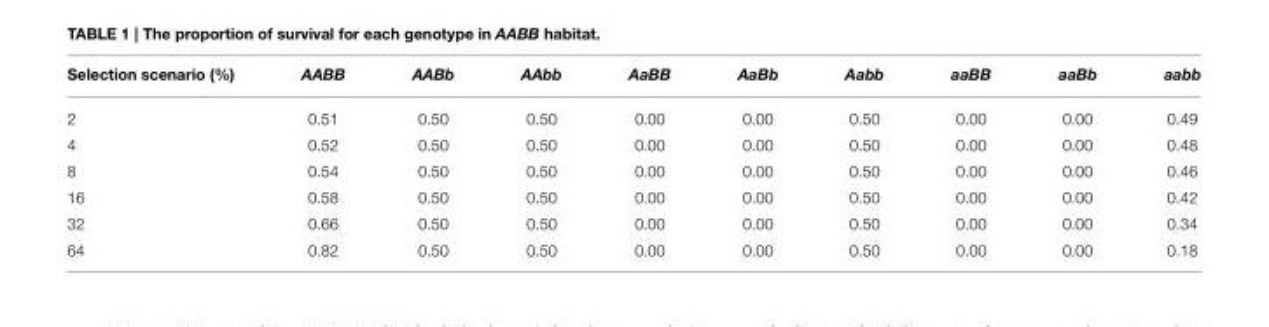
<table><thead><tr><td>Selection scenario (%)</td><td>AABB</td><td>AABb</td><td>AAbb</td><td>AaBB</td><td>AaBb</td><td>Aabb</td><td>aaBB</td><td>aaBb</td><td>aabb</td></tr></thead><tbody><tr><td>2</td><td>0.51</td><td>0.50</td><td>0.50</td><td>0.00</td><td>0.00</td><td>0.50</td><td>0.00</td><td>0.00</td><td>0.49</td></tr><tr><td>4</td><td>0.52</td><td>0.50</td><td>0.50</td><td>0.00</td><td>0.00</td><td>0.50</td><td>0.00</td><td>0.00</td><td>0.48</td></tr><tr><td>8</td><td>0.54</td><td>0.50</td><td>0.50</td><td>0.00</td><td>0.00</td><td>0.50</td><td>0.00</td><td>0.00</td><td>0.46</td></tr><tr><td>16</td><td>0.58</td><td>0.50</td><td>0.50</td><td>0.00</td><td>0.00</td><td>0.50</td><td>0.00</td><td>0.00</td><td>0.42</td></tr><tr><td>32</td><td>0.66</td><td>0.50</td><td>0.50</td><td>0.00</td><td>0.00</td><td>0.50</td><td>0.00</td><td>0.00</td><td>0.34</td></tr><tr><td>64</td><td>0.82</td><td>0.50</td><td>0.50</td><td>0.00</td><td>0.00</td><td>0.50</td><td>0.00</td><td>0.00</td><td>0.18</td></tr></tbody></table>